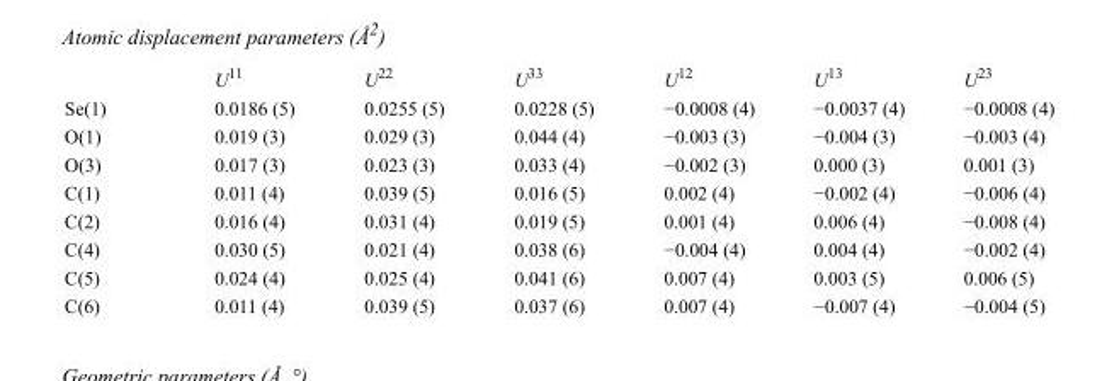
<table><thead><tr><td></td><td>U<sup>11</sup></td><td>U<sup>22</sup></td><td>U<sup>33</sup></td><td>U<sup>12</sup></td><td>U<sup>13</sup></td><td>U<sup>23</sup></td></tr></thead><tbody><tr><td>Se(1)</td><td>0.0186 (5)</td><td>0.0255 (5)</td><td>0.0228 (5)</td><td>−0.0008 (4)</td><td>−0.0037 (4)</td><td>−0.0008 (4)</td></tr><tr><td>O(1)</td><td>0.019 (3)</td><td>0.029 (3)</td><td>0.044 (4)</td><td>−0.003 (3)</td><td>−0.004 (3)</td><td>−0.003 (4)</td></tr><tr><td>O(3)</td><td>0.017 (3)</td><td>0.023 (3)</td><td>0.033 (4)</td><td>−0.002 (3)</td><td>0.000 (3)</td><td>0.001 (3)</td></tr><tr><td>C(1)</td><td>0.011 (4)</td><td>0.039 (5)</td><td>0.016 (5)</td><td>0.002 (4)</td><td>−0.002 (4)</td><td>−0.006 (4)</td></tr><tr><td>C(2)</td><td>0.016 (4)</td><td>0.031 (4)</td><td>0.019 (5)</td><td>0.001 (4)</td><td>0.006 (4)</td><td>−0.008 (4)</td></tr><tr><td>C(4)</td><td>0.030 (5)</td><td>0.021 (4)</td><td>0.038 (6)</td><td>−0.004 (4)</td><td>0.004 (4)</td><td>−0.002 (4)</td></tr><tr><td>C(5)</td><td>0.024 (4)</td><td>0.025 (4)</td><td>0.041 (6)</td><td>0.007 (4)</td><td>0.003 (5)</td><td>0.006 (5)</td></tr><tr><td>C(6)</td><td>0.011 (4)</td><td>0.039 (5)</td><td>0.037 (6)</td><td>0.007 (4)</td><td>−0.007 (4)</td><td>−0.004 (5)</td></tr></tbody></table>